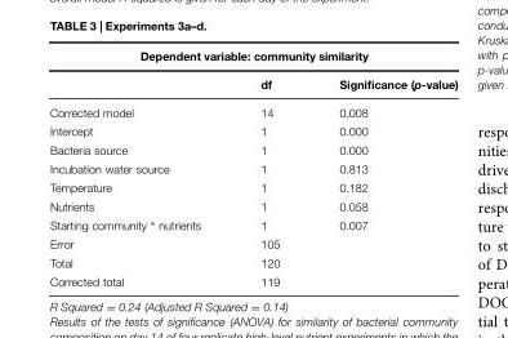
<table><thead><tr><td colspan="3">Dependent variable: community similarity</td></tr><tr><td></td><td>df</td><td>Significance (p-value)</td></tr></thead><tbody><tr><td>Corrected model</td><td>14</td><td>0.008</td></tr><tr><td>Intercept</td><td>1</td><td>0.000</td></tr><tr><td>Bacteria source</td><td>1</td><td>0.000</td></tr><tr><td>Incubation water source</td><td>1</td><td>0.813</td></tr><tr><td>Temperature</td><td>1</td><td>0.182</td></tr><tr><td>Nutrients</td><td>1</td><td>0.058</td></tr><tr><td>Starting community ∗ nutrients</td><td>1</td><td>0.007</td></tr><tr><td>Error</td><td>105</td><td></td></tr><tr><td>Total</td><td>120</td><td></td></tr><tr><td>Corrected total</td><td>119</td><td></td></tr></tbody></table>